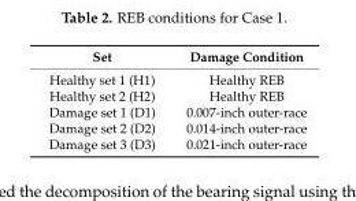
<table><thead><tr><td>Set</td><td>Damage Condition</td></tr></thead><tbody><tr><td>Healthy set 1 (H1)</td><td>Healthy REB</td></tr><tr><td>Healthy set 2 (H2)</td><td>Healthy REB</td></tr><tr><td>Damage set 1 (D1)</td><td>0.007-inch outer-race</td></tr><tr><td>Damage set 2 (D2)</td><td>0.014-inch outer-race</td></tr><tr><td>Damage set 3 (D3)</td><td>0.021-inch outer-race</td></tr></tbody></table>